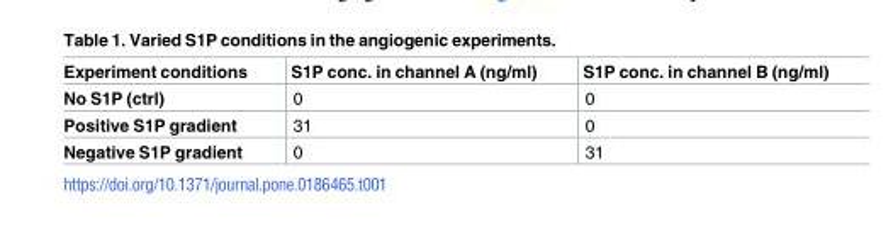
<table><thead><tr><td>Experiment conditions</td><td>S1P conc. in channel A (ng/ml)</td><td>S1P conc. in channel B (ng/ml)</td></tr></thead><tbody><tr><td>No S1P (ctrl)</td><td>0</td><td>0</td></tr><tr><td>Positive S1P gradient</td><td>31</td><td>0</td></tr><tr><td>Negative S1P gradient</td><td>0</td><td>31</td></tr></tbody></table>